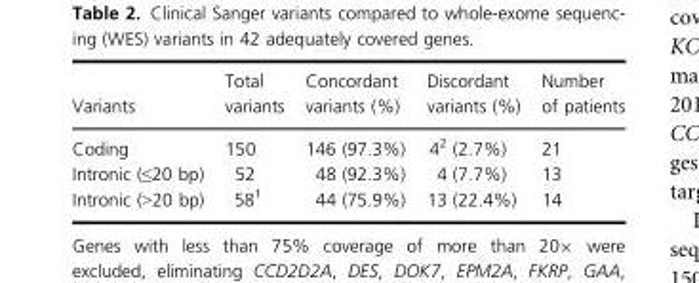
<table><thead><tr><td>Variants</td><td>Total variants</td><td>Concordant variants (%)</td><td>Discordant variants (%)</td><td>Number of patients</td></tr></thead><tbody><tr><td>Coding</td><td>150</td><td>146 (97.3%)</td><td>42 (2.7%)</td><td>21</td></tr><tr><td>Intronic (≤20 bp)</td><td>52</td><td>48 (92.3%)</td><td>4 (7.7%)</td><td>13</td></tr><tr><td>Intronic (&gt;20 bp)</td><td>581</td><td>44 (75.9%)</td><td>13 (22.4%)</td><td>14</td></tr></tbody></table>